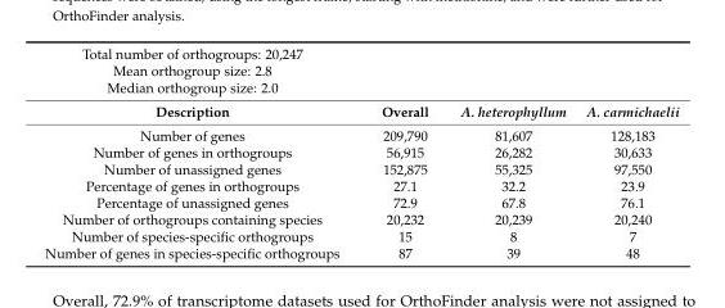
<table><tbody><tr><td colspan="4">Total number of orthogroups: 20,247</td></tr><tr><td colspan="4">Mean orthogroup size: 2.8</td></tr><tr><td colspan="4">Median orthogroup size: 2.0</td></tr><tr><td>Description</td><td>Overall</td><td>A. heterophyllum</td><td>A. carmichaelii</td></tr><tr><td>Number of genes</td><td>209,790</td><td>81,607</td><td>128,183</td></tr><tr><td>Number of genes in orthogroups</td><td>56,915</td><td>26,282</td><td>30,633</td></tr><tr><td>Number of unassigned genes</td><td>152,875</td><td>55,325</td><td>97,550</td></tr><tr><td>Percentage of genes in orthogroups</td><td>27.1</td><td>32.2</td><td>23.9</td></tr><tr><td>Percentage of unassigned genes</td><td>72.9</td><td>67.8</td><td>76.1</td></tr><tr><td>Number of orthogroups containing species</td><td>20,232</td><td>20,239</td><td>20,240</td></tr><tr><td>Number of species-specific orthogroups</td><td>15</td><td>8</td><td>7</td></tr><tr><td>Number of genes in species-specific orthogroups</td><td>87</td><td>39</td><td>48</td></tr></tbody></table>